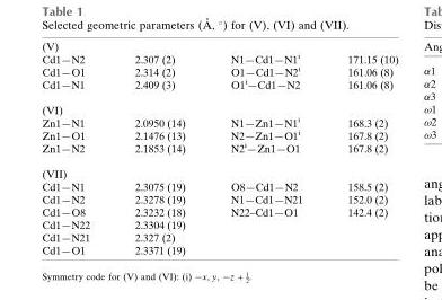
<table><tbody><tr><td colspan="4">(V)</td></tr><tr><td>Cd1—N2</td><td>2.307 (2)</td><td>N1—Cd1—N1<sup>i</sup></td><td>171.15 (10)</td></tr><tr><td>Cd1—O1</td><td>2.314 (2)</td><td>O1—Cd1—N2<sup>i</sup></td><td>161.06 (8)</td></tr><tr><td>Cd1—N1</td><td>2.409 (3)</td><td>O1<sup>i</sup>—Cd1—N2</td><td>161.06 (8)</td></tr><tr><td colspan="4">(VI)</td></tr><tr><td>Zn1—N1</td><td>2.0950 (14)</td><td>N1—Zn1—N1<sup>i</sup></td><td>168.3 (2)</td></tr><tr><td>Zn1—O1</td><td>2.1476 (13)</td><td>N2—Zn1—O1<sup>i</sup></td><td>167.8 (2)</td></tr><tr><td>Zn1—N2</td><td>2.1853 (14)</td><td>N2<sup>i</sup>—Zn1—O1</td><td>167.8 (2)</td></tr><tr><td colspan="4">(VII)</td></tr><tr><td>Cd1—N1</td><td>2.3075 (19)</td><td>O8—Cd1—N2</td><td>158.5 (2)</td></tr><tr><td>Cd1—N2</td><td>2.3278 (19)</td><td>N1—Cd1—N21</td><td>152.0 (2)</td></tr><tr><td>Cd1—O8</td><td>2.3232 (18)</td><td>N22–Cd1—O1</td><td>142.4 (2)</td></tr><tr><td>Cd1—N22</td><td>2.3304 (19)</td><td></td><td></td></tr><tr><td>Cd1—N21</td><td>2.327 (2)</td><td></td><td></td></tr><tr><td>Cd1—O1</td><td>2.3371 (19)</td><td></td><td></td></tr></tbody></table>